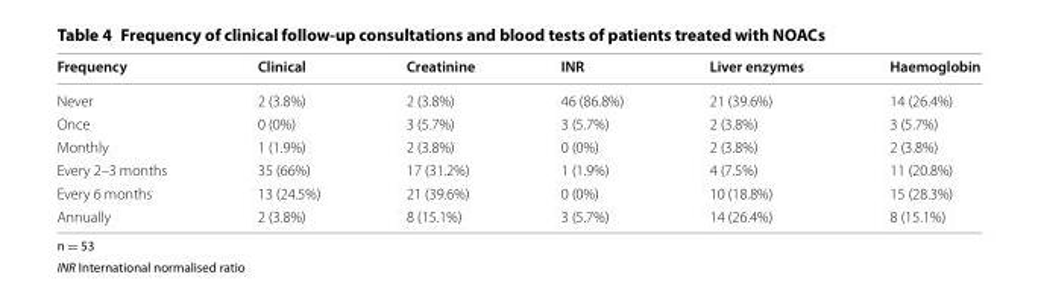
<table><thead><tr><td>Frequency</td><td>Clinical</td><td>Creatinine</td><td>INR</td><td>Liver enzymes</td><td>Haemoglobin</td></tr></thead><tbody><tr><td>Never</td><td>2 (3.8%)</td><td>2 (3.8%)</td><td>46 (86.8%)</td><td>21 (39.6%)</td><td>14 (26.4%)</td></tr><tr><td>Once</td><td>0 (0%)</td><td>3 (5.7%)</td><td>3 (5.7%)</td><td>2 (3.8%)</td><td>3 (5.7%)</td></tr><tr><td>Monthly</td><td>1 (1.9%)</td><td>2 (3.8%)</td><td>0 (0%)</td><td>2 (3.8%)</td><td>2 (3.8%)</td></tr><tr><td>Every 2–3 months</td><td>35 (66%)</td><td>17 (31.2%)</td><td>1 (1.9%)</td><td>4 (7.5%)</td><td>11 (20.8%)</td></tr><tr><td>Every 6 months</td><td>13 (24.5%)</td><td>21 (39.6%)</td><td>0 (0%)</td><td>10 (18.8%)</td><td>15 (28.3%)</td></tr><tr><td>Annually</td><td>2 (3.8%)</td><td>8 (15.1%)</td><td>3 (5.7%)</td><td>14 (26.4%)</td><td>8 (15.1%)</td></tr></tbody></table>